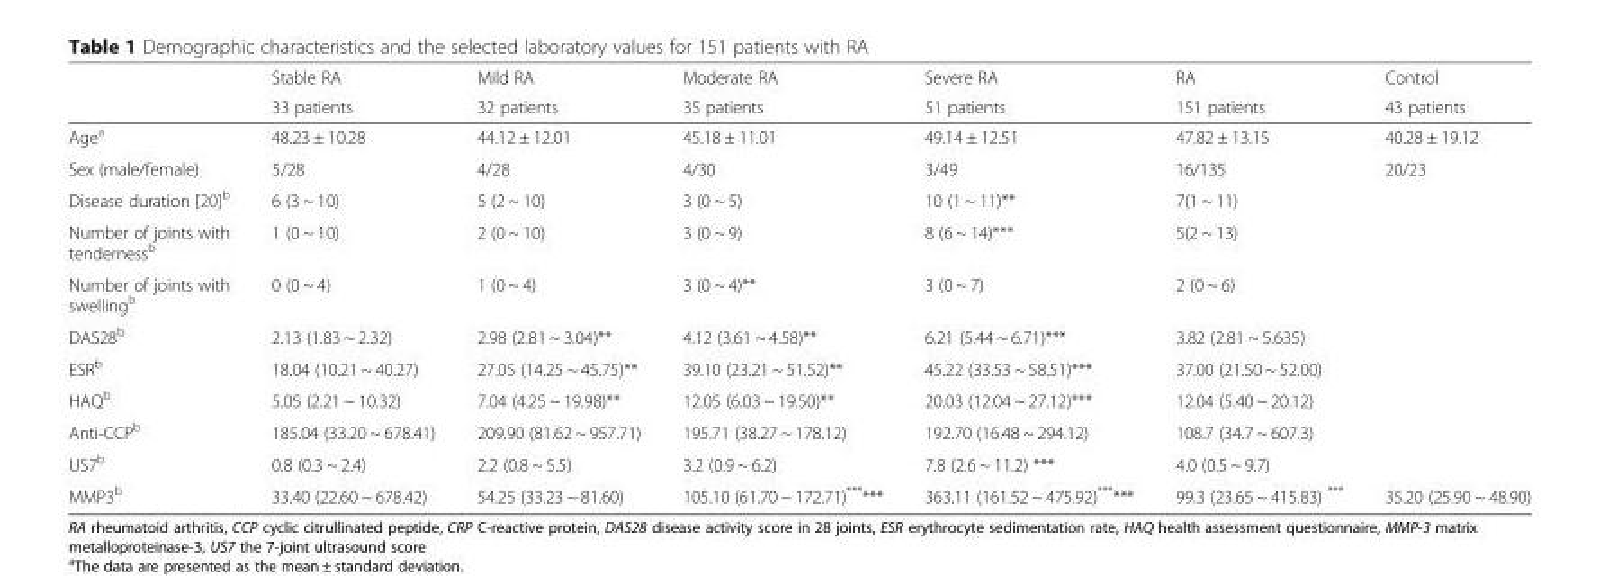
<table><thead><tr><td rowspan="2"></td><td rowspan="2">Stable RA 33 patients</td><td rowspan="2">Mild RA 32 patients</td><td rowspan="2">Moderate RA 35 patients</td><td rowspan="2">Severe RA 51 patients</td><td rowspan="2">RA 151 patients</td><td rowspan="2">Control 43 patients</td></tr><tr></tr></thead><tbody><tr><td>Age<sup>a</sup></td><td>48.23 ± 10.28</td><td>44.12 ± 12.01</td><td>45.18 ± 11.01</td><td>49.14 ± 12.51</td><td>47.82 ± 13.15</td><td>40.28 ± 19.12</td></tr><tr><td>Sex (male/female)</td><td>5/28</td><td>4/28</td><td>4/30</td><td>3/49</td><td>16/135</td><td>20/23</td></tr><tr><td>Disease duration [20]<sup>b</sup></td><td>6 (3 ~ 10)</td><td>5 (2 ~ 10)</td><td>3 (0 ~ 5)</td><td>10 (1 ~ 11)**</td><td>7(1 ~ 11)</td><td rowspan="8"></td></tr><tr><td>Number of joints with tenderness<sup>b</sup></td><td>1 (0 ~ 10)</td><td>2 (0 ~ 10)</td><td>3 (0 ~ 9)</td><td>8 (6 ~ 14)***</td><td>5(2 ~ 13)</td></tr><tr><td>Number of joints with swelling<sup>b</sup></td><td>0 (0 ~ 4)</td><td>1 (0 ~ 4)</td><td>3 (0 ~ 4)**</td><td>3 (0 ~ 7)</td><td>2 (0 ~ 6)</td></tr><tr><td>DAS28<sup>b</sup></td><td>2.13 (1.83 ~ 2.32)</td><td>2.98 (2.81 ~ 3.04)**</td><td>4.12 (3.61 ~ 4.58)**</td><td>6.21 (5.44 ~ 6.71)***</td><td>3.82 (2.81 ~ 5.635)</td></tr><tr><td>ESR<sup>b</sup></td><td>18.04 (10.21 ~ 40.27)</td><td>27.05 (14.25 ~ 45.75)**</td><td>39.10 (23.21 ~ 51.52)**</td><td>45.22 (33.53 ~ 58.51)***</td><td>37.00 (21.50 ~ 52.00)</td></tr><tr><td>HAQ<sup>b</sup></td><td>5.05 (2.21 ~ 10.32)</td><td>7.04 (4.25 ~ 19.98)**</td><td>12.05 (6.03 ~ 19.50)**</td><td>20.03 (12.04 ~ 27.12)***</td><td>12.04 (5.40 ~ 20.12)</td></tr><tr><td>Anti-CCP<sup>b</sup></td><td>185.04 (33.20 ~ 678.41)</td><td>209.90 (81.62 ~ 957.71)</td><td>195.71 (38.27 ~ 178.12)</td><td>192.70 (16.48 ~ 294.12)</td><td>108.7 (34.7 ~ 607.3)</td></tr><tr><td>US7<sup>b</sup></td><td>0.8 (0.3 ~ 2.4)</td><td>2.2 (0.8 ~ 5.5)</td><td>3.2 (0.9 ~ 6.2)</td><td>7.8 (2.6 ~ 11.2) ***</td><td>4.0 (0.5 ~ 9.7)</td></tr><tr><td>MMP3<sup>b</sup></td><td>33.40 (22.60 ~ 678.42)</td><td>54.25 (33.23 ~ 81.60)</td><td>105.10 (61.70 ~ 172.71)******</td><td>363.11 (161.52 ~ 475.92)******</td><td>99.3 (23.65 ~ 415.83) ***</td><td>35.20 (25.90 ~ 48.90)</td></tr></tbody></table>